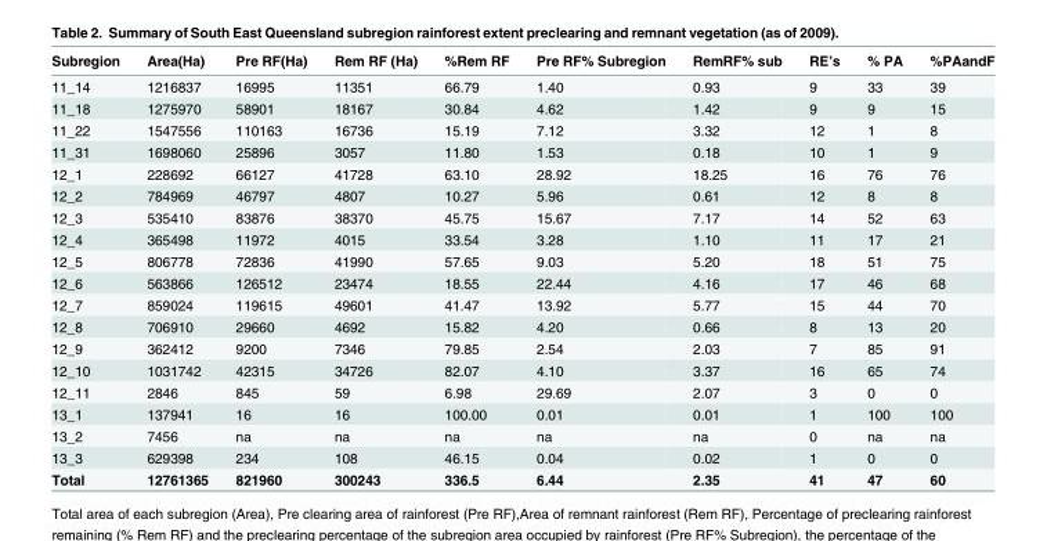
<table><thead><tr><td>Subregion</td><td>Area(Ha)</td><td>Pre RF(Ha)</td><td>Rem RF (Ha)</td><td>%Rem RF</td><td>Pre RF% Subregion</td><td>RemRF% sub</td><td>RE’s</td><td>% PA</td><td>%PAandF</td></tr></thead><tbody><tr><td>11_14</td><td>1216837</td><td>16995</td><td>11351</td><td>66.79</td><td>1.40</td><td>0.93</td><td>9</td><td>33</td><td>39</td></tr><tr><td>11_18</td><td>1275970</td><td>58901</td><td>18167</td><td>30.84</td><td>4.62</td><td>1.42</td><td>9</td><td>9</td><td>15</td></tr><tr><td>11_22</td><td>1547556</td><td>110163</td><td>16736</td><td>15.19</td><td>7.12</td><td>3.32</td><td>12</td><td>1</td><td>8</td></tr><tr><td>11_31</td><td>1698060</td><td>25896</td><td>3057</td><td>11.80</td><td>1.53</td><td>0.18</td><td>10</td><td>1</td><td>9</td></tr><tr><td>12_1</td><td>228692</td><td>66127</td><td>41728</td><td>63.10</td><td>28.92</td><td>18.25</td><td>16</td><td>76</td><td>76</td></tr><tr><td>12_2</td><td>784969</td><td>46797</td><td>4807</td><td>10.27</td><td>5.96</td><td>0.61</td><td>12</td><td>8</td><td>8</td></tr><tr><td>12_3</td><td>535410</td><td>83876</td><td>38370</td><td>45.75</td><td>15.67</td><td>7.17</td><td>14</td><td>52</td><td>63</td></tr><tr><td>12_4</td><td>365498</td><td>11972</td><td>4015</td><td>33.54</td><td>3.28</td><td>1.10</td><td>11</td><td>17</td><td>21</td></tr><tr><td>12_5</td><td>806778</td><td>72836</td><td>41990</td><td>57.65</td><td>9.03</td><td>5.20</td><td>18</td><td>51</td><td>75</td></tr><tr><td>12_6</td><td>563866</td><td>126512</td><td>23474</td><td>18.55</td><td>22.44</td><td>4.16</td><td>17</td><td>46</td><td>68</td></tr><tr><td>12_7</td><td>859024</td><td>119615</td><td>49601</td><td>41.47</td><td>13.92</td><td>5.77</td><td>15</td><td>44</td><td>70</td></tr><tr><td>12_8</td><td>706910</td><td>29660</td><td>4692</td><td>15.82</td><td>4.20</td><td>0.66</td><td>8</td><td>13</td><td>20</td></tr><tr><td>12_9</td><td>362412</td><td>9200</td><td>7346</td><td>79.85</td><td>2.54</td><td>2.03</td><td>7</td><td>85</td><td>91</td></tr><tr><td>12_10</td><td>1031742</td><td>42315</td><td>34726</td><td>82.07</td><td>4.10</td><td>3.37</td><td>16</td><td>65</td><td>74</td></tr><tr><td>12_11</td><td>2846</td><td>845</td><td>59</td><td>6.98</td><td>29.69</td><td>2.07</td><td>3</td><td>0</td><td>0</td></tr><tr><td>13_1</td><td>137941</td><td>16</td><td>16</td><td>100.00</td><td>0.01</td><td>0.01</td><td>1</td><td>100</td><td>100</td></tr><tr><td>13_2</td><td>7456</td><td>na</td><td>na</td><td>na</td><td>na</td><td>na</td><td>0</td><td>na</td><td>na</td></tr><tr><td>13_3</td><td>629398</td><td>234</td><td>108</td><td>46.15</td><td>0.04</td><td>0.02</td><td>1</td><td>0</td><td>0</td></tr><tr><td>Total</td><td>12761365</td><td>821960</td><td>300243</td><td>336.5</td><td>6.44</td><td>2.35</td><td>41</td><td>47</td><td>60</td></tr></tbody></table>